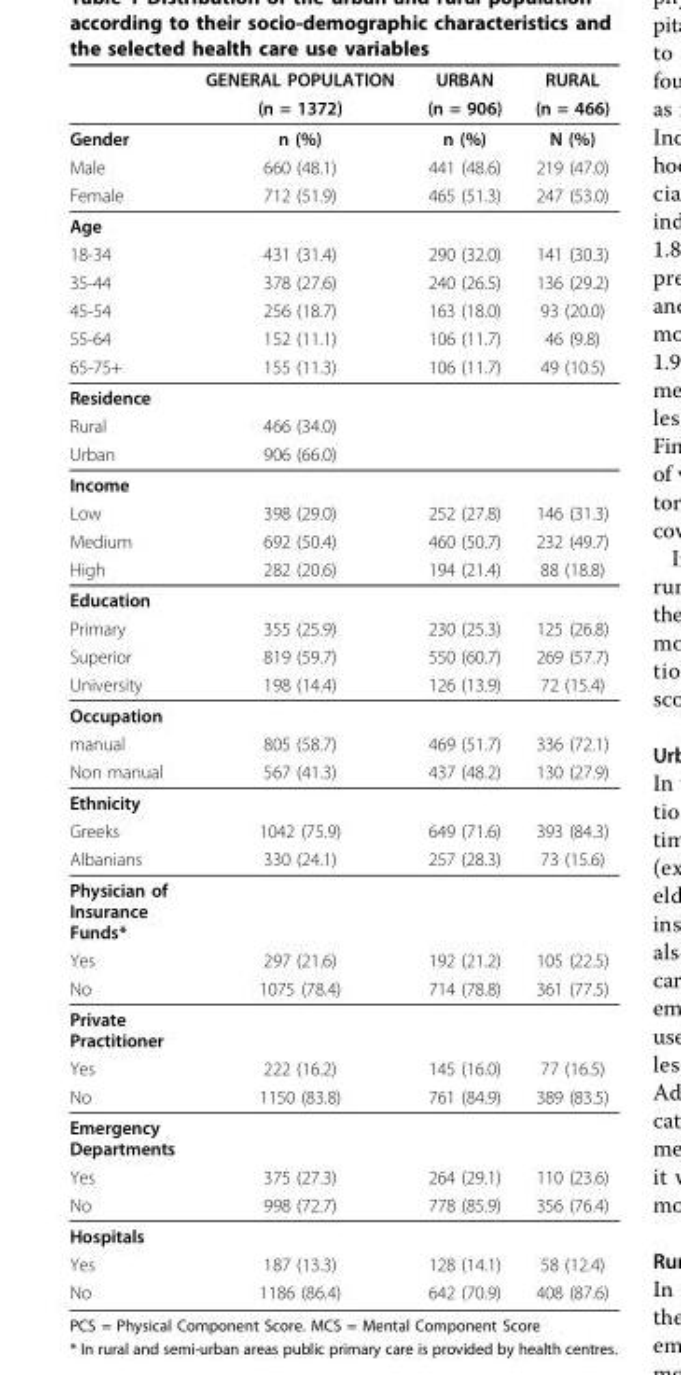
<table><thead><tr><td rowspan="2"></td><td rowspan="2">GENERAL POPULATION (n = 1372)</td><td rowspan="2">URBAN (n = 906)</td><td rowspan="2">RURAL (n = 466)</td></tr><tr></tr></thead><tbody><tr><td>Gender</td><td>n (%)</td><td>n (%)</td><td>N (%)</td></tr><tr><td>Male</td><td>660 (48.1)</td><td>441 (48.6)</td><td>219 (47.0)</td></tr><tr><td>Female</td><td>712 (51.9)</td><td>465 (51.3)</td><td>247 (53.0)</td></tr><tr><td colspan="4">Age</td></tr><tr><td>18-34</td><td>431 (31.4)</td><td>290 (32.0)</td><td>141 (30.3)</td></tr><tr><td>35-44</td><td>378 (27.6)</td><td>240 (26.5)</td><td>136 (29.2)</td></tr><tr><td>45-54</td><td>256 (18.7)</td><td>163 (18.0)</td><td>93 (20.0)</td></tr><tr><td>55-64</td><td>152 (11.1)</td><td>106 (11.7)</td><td>46 (9.8)</td></tr><tr><td>65-75+</td><td>155 (11.3)</td><td>106 (11.7)</td><td>49 (10.5)</td></tr><tr><td colspan="4">Residence</td></tr><tr><td>Rural</td><td>466 (34.0)</td><td></td><td></td></tr><tr><td>Urban</td><td>906 (66.0)</td><td></td><td></td></tr><tr><td colspan="4">Income</td></tr><tr><td>Low</td><td>398 (29.0)</td><td>252 (27.8)</td><td>146 (31.3)</td></tr><tr><td>Medium</td><td>692 (50.4)</td><td>460 (50.7)</td><td>232 (49.7)</td></tr><tr><td>High</td><td>282 (20.6)</td><td>194 (21.4)</td><td>88 (18.8)</td></tr><tr><td colspan="4">Education</td></tr><tr><td>Primary</td><td>355 (25.9)</td><td>230 (25.3)</td><td>125 (26.8)</td></tr><tr><td>Superior</td><td>819 (59.7)</td><td>550 (60.7)</td><td>269 (57.7)</td></tr><tr><td>University</td><td>198 (14.4)</td><td>126 (13.9)</td><td>72 (15.4)</td></tr><tr><td colspan="4">Occupation</td></tr><tr><td>manual</td><td>805 (58.7)</td><td>469 (51.7)</td><td>336 (72.1)</td></tr><tr><td>Non manual</td><td>567 (41.3)</td><td>437 (48.2)</td><td>130 (27.9)</td></tr><tr><td colspan="4">Ethnicity</td></tr><tr><td>Greeks</td><td>1042 (75.9)</td><td>649 (71.6)</td><td>393 (84.3)</td></tr><tr><td>Albanians</td><td>330 (24.1)</td><td>257 (28.3)</td><td>73 (15.6)</td></tr><tr><td colspan="4">Physician of Insurance Funds*</td></tr><tr><td>Yes</td><td>297 (21.6)</td><td>192 (21.2)</td><td>105 (22.5)</td></tr><tr><td>No</td><td>1075 (78.4)</td><td>714 (78.8)</td><td>361 (77.5)</td></tr><tr><td colspan="4">Private Practitioner</td></tr><tr><td>Yes</td><td>222 (16.2)</td><td>145 (16.0)</td><td>77 (16.5)</td></tr><tr><td>No</td><td>1150 (83.8)</td><td>761 (84.9)</td><td>389 (83.5)</td></tr><tr><td colspan="4">Emergency Departments</td></tr><tr><td>Yes</td><td>375 (27.3)</td><td>264 (29.1)</td><td>110 (23.6)</td></tr><tr><td>No</td><td>998 (72.7)</td><td>778 (85.9)</td><td>356 (76.4)</td></tr><tr><td colspan="4">Hospitals</td></tr><tr><td>Yes</td><td>187 (13.3)</td><td>128 (14.1)</td><td>58 (12.4)</td></tr><tr><td>No</td><td>1186 (86.4)</td><td>642 (70.9)</td><td>408 (87.6)</td></tr></tbody></table>